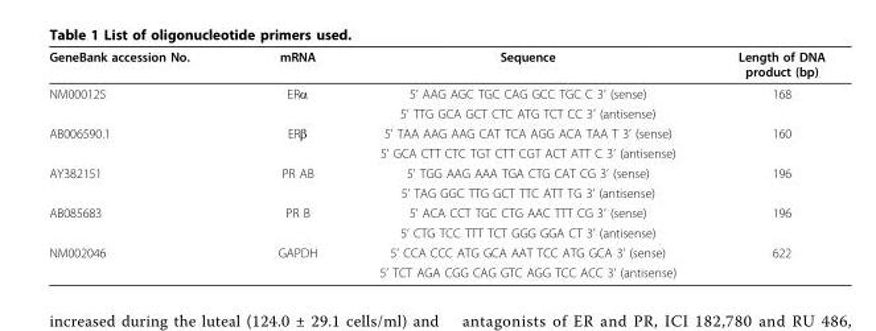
<table><thead><tr><td>GeneBank accession No.</td><td>mRNA</td><td>Sequence</td><td>Length of DNA product (bp)</td></tr></thead><tbody><tr><td rowspan="2">NM000125</td><td>ERα</td><td>5’ AAG AGC TGC CAG GCC TGC C 3’ (sense)</td><td>168</td></tr><tr><td></td><td>5’ TTG GCA GCT CTC ATG TCT CC 3’ (antisense)</td><td></td></tr><tr><td rowspan="2">AB006590.1</td><td>ERβ</td><td>5’ TAA AAG AAG CAT TCA AGG ACA TAA T 3’ (sense)</td><td>160</td></tr><tr><td></td><td>5’ GCA CTT CTC TGT CTT CGT ACT ATT C 3’ (antisense)</td><td></td></tr><tr><td rowspan="2">AY382151</td><td>PR AB</td><td>5’ TGG AAG AAA TGA CTG CAT CG 3’ (sense)</td><td>196</td></tr><tr><td></td><td>5’ TAG GGC TTG GCT TTC ATT TG 3’ (antisense)</td><td></td></tr><tr><td rowspan="2">AB085683</td><td>PR B</td><td>5’ ACA CCT TGC CTG AAC TTT CG 3’ (sense)</td><td>196</td></tr><tr><td></td><td>5’ CTG TCC TTT TCT GGG GGA CT 3’ (antisense)</td><td></td></tr><tr><td rowspan="2">NM002046</td><td>GAPDH</td><td>5’ CCA CCC ATG GCA AAT TCC ATG GCA 3’ (sense)</td><td>622</td></tr><tr><td></td><td>5’ TCT AGA CGG CAG GTC AGG TCC ACC 3’ (antisense)</td><td></td></tr></tbody></table>